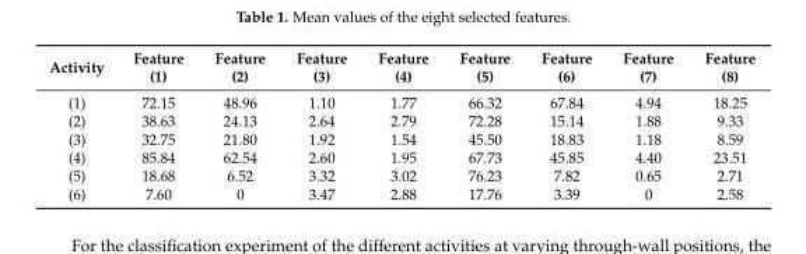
<table><thead><tr><td>Activity</td><td>Feature (1)</td><td>Feature (2)</td><td>Feature (3)</td><td>Feature (4)</td><td>Feature (5)</td><td>Feature (6)</td><td>Feature (7)</td><td>Feature (8)</td></tr></thead><tbody><tr><td>(1)</td><td>72.15</td><td>48.96</td><td>1.10</td><td>1.77</td><td>66.32</td><td>67.84</td><td>4.94</td><td>18.25</td></tr><tr><td>(2)</td><td>38.63</td><td>24.13</td><td>2.64</td><td>2.79</td><td>72.28</td><td>15.14</td><td>1.88</td><td>9.33</td></tr><tr><td>(3)</td><td>32.75</td><td>21.80</td><td>1.92</td><td>1.54</td><td>45.50</td><td>18.83</td><td>1.18</td><td>8.59</td></tr><tr><td>(4)</td><td>85.84</td><td>62.54</td><td>2.60</td><td>1.95</td><td>67.73</td><td>45.85</td><td>4.40</td><td>23.51</td></tr><tr><td>(5)</td><td>18.68</td><td>6.52</td><td>3.32</td><td>3.02</td><td>76.23</td><td>7.82</td><td>0.65</td><td>2.71</td></tr><tr><td>(6)</td><td>7.60</td><td>0</td><td>3.47</td><td>2.88</td><td>17.76</td><td>3.39</td><td>0</td><td>2.58</td></tr></tbody></table>